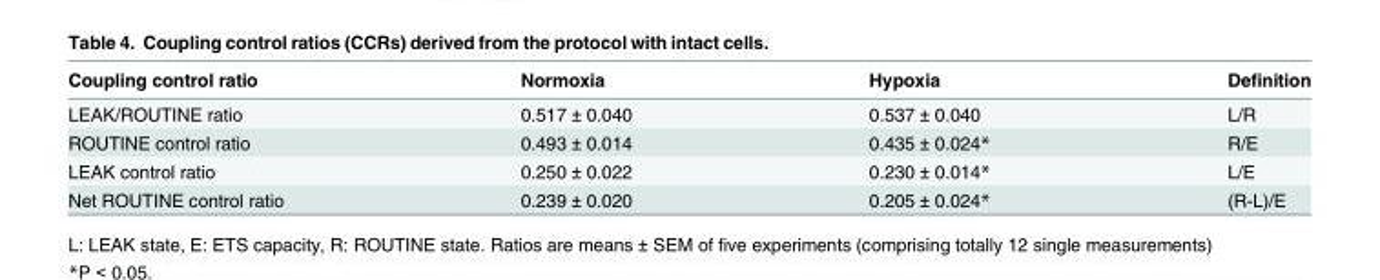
<table><thead><tr><td>Coupling control ratio</td><td>Normoxia</td><td>Hypoxia</td><td>Definition</td></tr></thead><tbody><tr><td>LEAK/ROUTINE ratio</td><td>0.517 ± 0.040</td><td>0.537 ± 0.040</td><td>L/R</td></tr><tr><td>ROUTINE control ratio</td><td>0.493 ± 0.014</td><td>0.435 ± 0.024*</td><td>R/E</td></tr><tr><td>LEAK control ratio</td><td>0.250 ± 0.022</td><td>0.230 ± 0.014*</td><td>L/E</td></tr><tr><td>Net ROUTINE control ratio</td><td>0.239 ± 0.020</td><td>0.205 ± 0.024*</td><td>(R-L)/E</td></tr></tbody></table>